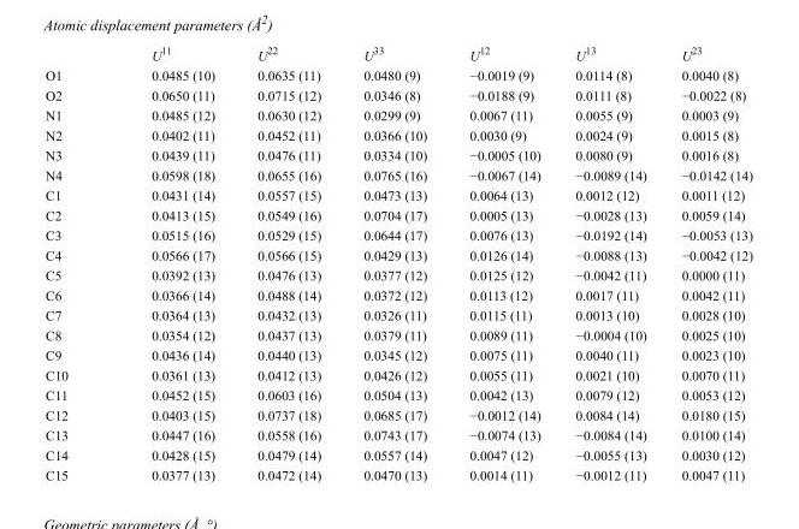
<table><thead><tr><td></td><td>U<sup>11</sup></td><td>U<sup>22</sup></td><td>U<sup>33</sup></td><td>U<sup>12</sup></td><td>U<sup>13</sup></td><td>U<sup>23</sup></td></tr></thead><tbody><tr><td>O1</td><td>0.0485 (10)</td><td>0.0635 (11)</td><td>0.0480 (9)</td><td>−0.0019 (9)</td><td>0.0114 (8)</td><td>0.0040 (8)</td></tr><tr><td>O2</td><td>0.0650 (11)</td><td>0.0715 (12)</td><td>0.0346 (8)</td><td>−0.0188 (9)</td><td>0.0111 (8)</td><td>−0.0022 (8)</td></tr><tr><td>N1</td><td>0.0485 (12)</td><td>0.0630 (12)</td><td>0.0299 (9)</td><td>0.0067 (11)</td><td>0.0055 (9)</td><td>0.0003 (9)</td></tr><tr><td>N2</td><td>0.0402 (11)</td><td>0.0452 (11)</td><td>0.0366 (10)</td><td>0.0030 (9)</td><td>0.0024 (9)</td><td>0.0015 (8)</td></tr><tr><td>N3</td><td>0.0439 (11)</td><td>0.0476 (11)</td><td>0.0334 (10)</td><td>−0.0005 (10)</td><td>0.0080 (9)</td><td>0.0016 (8)</td></tr><tr><td>N4</td><td>0.0598 (18)</td><td>0.0655 (16)</td><td>0.0765 (16)</td><td>−0.0067 (14)</td><td>−0.0089 (14)</td><td>−0.0142 (14)</td></tr><tr><td>C1</td><td>0.0431 (14)</td><td>0.0557 (15)</td><td>0.0473 (13)</td><td>0.0064 (13)</td><td>0.0012 (12)</td><td>0.0011 (12)</td></tr><tr><td>C2</td><td>0.0413 (15)</td><td>0.0549 (16)</td><td>0.0704 (17)</td><td>0.0005 (13)</td><td>−0.0028 (13)</td><td>0.0059 (14)</td></tr><tr><td>C3</td><td>0.0515 (16)</td><td>0.0529 (15)</td><td>0.0644 (17)</td><td>0.0076 (13)</td><td>−0.0192 (14)</td><td>−0.0053 (13)</td></tr><tr><td>C4</td><td>0.0566 (17)</td><td>0.0566 (15)</td><td>0.0429 (13)</td><td>0.0126 (14)</td><td>−0.0088 (13)</td><td>−0.0042 (12)</td></tr><tr><td>C5</td><td>0.0392 (13)</td><td>0.0476 (13)</td><td>0.0377 (12)</td><td>0.0125 (12)</td><td>−0.0042 (11)</td><td>0.0000 (11)</td></tr><tr><td>C6</td><td>0.0366 (14)</td><td>0.0488 (14)</td><td>0.0372 (12)</td><td>0.0113 (12)</td><td>0.0017 (11)</td><td>0.0042 (11)</td></tr><tr><td>C7</td><td>0.0364 (13)</td><td>0.0432 (13)</td><td>0.0326 (11)</td><td>0.0115 (11)</td><td>0.0013 (10)</td><td>0.0028 (10)</td></tr><tr><td>C8</td><td>0.0354 (12)</td><td>0.0437 (13)</td><td>0.0379 (11)</td><td>0.0089 (11)</td><td>−0.0004 (10)</td><td>0.0025 (10)</td></tr><tr><td>C9</td><td>0.0436 (14)</td><td>0.0440 (13)</td><td>0.0345 (12)</td><td>0.0075 (11)</td><td>0.0040 (11)</td><td>0.0023 (10)</td></tr><tr><td>C10</td><td>0.0361 (13)</td><td>0.0412 (13)</td><td>0.0426 (12)</td><td>0.0055 (11)</td><td>0.0021 (10)</td><td>0.0070 (11)</td></tr><tr><td>C11</td><td>0.0452 (15)</td><td>0.0603 (16)</td><td>0.0504 (13)</td><td>0.0042 (13)</td><td>0.0079 (12)</td><td>0.0053 (12)</td></tr><tr><td>C12</td><td>0.0403 (15)</td><td>0.0737 (18)</td><td>0.0685 (17)</td><td>−0.0012 (14)</td><td>0.0084 (14)</td><td>0.0180 (15)</td></tr><tr><td>C13</td><td>0.0447 (16)</td><td>0.0558 (16)</td><td>0.0743 (17)</td><td>−0.0074 (13)</td><td>−0.0084 (14)</td><td>0.0100 (14)</td></tr><tr><td>C14</td><td>0.0428 (15)</td><td>0.0479 (14)</td><td>0.0557 (14)</td><td>0.0047 (12)</td><td>−0.0055 (13)</td><td>0.0030 (12)</td></tr><tr><td>C15</td><td>0.0377 (13)</td><td>0.0472 (14)</td><td>0.0470 (13)</td><td>0.0014 (11)</td><td>−0.0012 (11)</td><td>0.0047 (11)</td></tr></tbody></table>